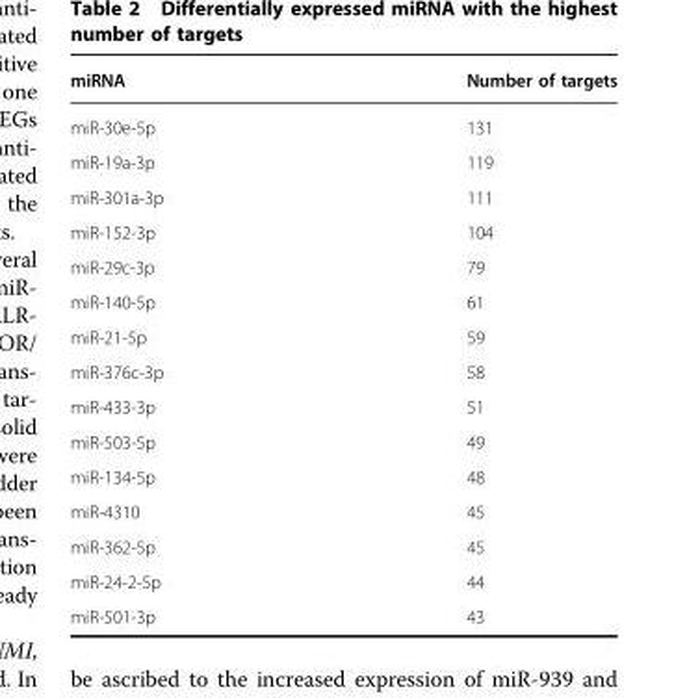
<table><thead><tr><td>miRNA</td><td>Number of targets</td></tr></thead><tbody><tr><td>miR-30e-5p</td><td>131</td></tr><tr><td>miR-19a-3p</td><td>119</td></tr><tr><td>miR-301a-3p</td><td>111</td></tr><tr><td>miR-152-3p</td><td>104</td></tr><tr><td>miR-29c-3p</td><td>79</td></tr><tr><td>miR-140-5p</td><td>61</td></tr><tr><td>miR-21-5p</td><td>59</td></tr><tr><td>miR-376c-3p</td><td>58</td></tr><tr><td>miR-433-3p</td><td>51</td></tr><tr><td>miR-503-5p</td><td>49</td></tr><tr><td>miR-134-5p</td><td>48</td></tr><tr><td>miR-4310</td><td>45</td></tr><tr><td>miR-362-5p</td><td>45</td></tr><tr><td>miR-24-2-5p</td><td>44</td></tr><tr><td>miR-501-3p</td><td>43</td></tr></tbody></table>